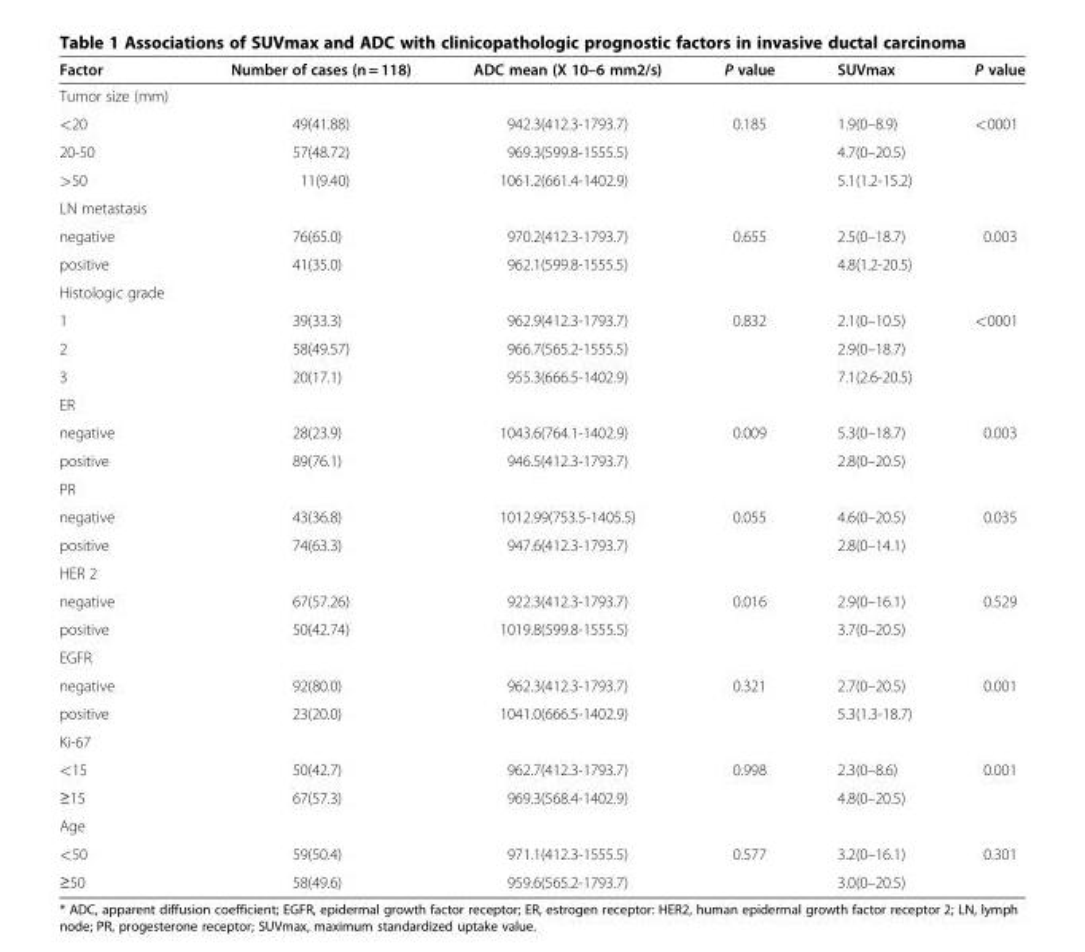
<table><thead><tr><td>Factor</td><td>Number of cases (n = 118)</td><td>ADC mean (X 10–6 mm2/s)</td><td>P value</td><td>SUVmax</td><td>P value</td></tr></thead><tbody><tr><td colspan="6">Tumor size (mm)</td></tr><tr><td>&lt;20</td><td>49(41.88)</td><td>942.3(412.3-1793.7)</td><td>0.185</td><td>1.9(0–8.9)</td><td>&lt;0001</td></tr><tr><td>20-50</td><td>57(48.72)</td><td>969.3(599.8-1555.5)</td><td></td><td>4.7(0–20.5)</td><td></td></tr><tr><td>&gt;50</td><td>11(9.40)</td><td>1061.2(661.4-1402.9)</td><td></td><td>5.1(1.2-15.2)</td><td></td></tr><tr><td colspan="6">LN metastasis</td></tr><tr><td>negative</td><td>76(65.0)</td><td>970.2(412.3-1793.7)</td><td>0.655</td><td>2.5(0–18.7)</td><td>0.003</td></tr><tr><td>positive</td><td>41(35.0)</td><td>962.1(599.8-1555.5)</td><td></td><td>4.8(1.2-20.5)</td><td></td></tr><tr><td colspan="6">Histologic grade</td></tr><tr><td>1</td><td>39(33.3)</td><td>962.9(412.3-1793.7)</td><td>0.832</td><td>2.1(0–10.5)</td><td>&lt;0001</td></tr><tr><td>2</td><td>58(49.57)</td><td>966.7(565.2-1555.5)</td><td></td><td>2.9(0–18.7)</td><td></td></tr><tr><td>3</td><td>20(17.1)</td><td>955.3(666.5-1402.9)</td><td></td><td>7.1(2.6-20.5)</td><td></td></tr><tr><td colspan="6">ER</td></tr><tr><td>negative</td><td>28(23.9)</td><td>1043.6(764.1-1402.9)</td><td>0.009</td><td>5.3(0–18.7)</td><td>0.003</td></tr><tr><td>positive</td><td>89(76.1)</td><td>946.5(412.3-1793.7)</td><td></td><td>2.8(0–20.5)</td><td></td></tr><tr><td colspan="6">PR</td></tr><tr><td>negative</td><td>43(36.8)</td><td>1012.99(753.5-1405.5)</td><td>0.055</td><td>4.6(0–20.5)</td><td>0.035</td></tr><tr><td>positive</td><td>74(63.3)</td><td>947.6(412.3-1793.7)</td><td></td><td>2.8(0–14.1)</td><td></td></tr><tr><td colspan="6">HER 2</td></tr><tr><td>negative</td><td>67(57.26)</td><td>922.3(412.3-1793.7)</td><td>0.016</td><td>2.9(0–16.1)</td><td>0.529</td></tr><tr><td>positive</td><td>50(42.74)</td><td>1019.8(599.8-1555.5)</td><td></td><td>3.7(0–20.5)</td><td></td></tr><tr><td colspan="6">EGFR</td></tr><tr><td>negative</td><td>92(80.0)</td><td>962.3(412.3-1793.7)</td><td>0.321</td><td>2.7(0–20.5)</td><td>0.001</td></tr><tr><td>positive</td><td>23(20.0)</td><td>1041.0(666.5-1402.9)</td><td></td><td>5.3(1.3-18.7)</td><td></td></tr><tr><td colspan="6">Ki-67</td></tr><tr><td>&lt;15</td><td>50(42.7)</td><td>962.7(412.3-1793.7)</td><td>0.998</td><td>2.3(0–8.6)</td><td>0.001</td></tr><tr><td>≥15</td><td>67(57.3)</td><td>969.3(568.4-1402.9)</td><td></td><td>4.8(0–20.5)</td><td></td></tr><tr><td colspan="6">Age</td></tr><tr><td>&lt;50</td><td>59(50.4)</td><td>971.1(412.3-1555.5)</td><td>0.577</td><td>3.2(0–16.1)</td><td>0.301</td></tr><tr><td>≥50</td><td>58(49.6)</td><td>959.6(565.2-1793.7)</td><td></td><td>3.0(0–20.5)</td><td></td></tr></tbody></table>